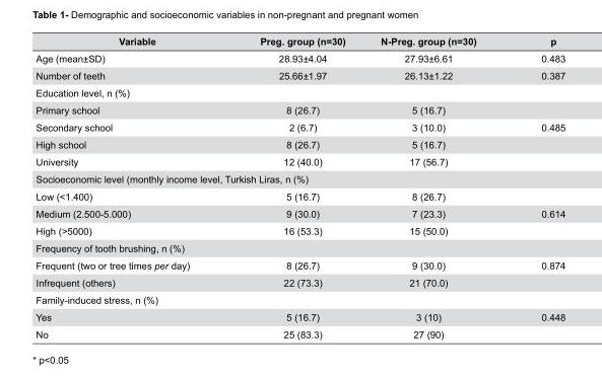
<table><thead><tr><td>Variable</td><td>Preg. group (n=30)</td><td>N-Preg. group (n=30)</td><td>p</td></tr></thead><tbody><tr><td>Age (mean±SD)</td><td>28.93±4.04</td><td>27.93±6.61</td><td>0.483</td></tr><tr><td>Number of teeth</td><td>25.66±1.97</td><td>26.13±1.22</td><td>0.387</td></tr><tr><td colspan="4">Education level, n (%)</td></tr><tr><td>Primary school</td><td>8 (26.7)</td><td>5 (16.7)</td><td></td></tr><tr><td>Secondary school</td><td>2 (6.7)</td><td>3 (10.0)</td><td>0.485</td></tr><tr><td>High school</td><td>8 (26.7)</td><td>5 (16.7)</td><td></td></tr><tr><td>University</td><td>12 (40.0)</td><td>17 (56.7)</td><td></td></tr><tr><td colspan="4">Socioeconomic level (monthly income level, Turkish Liras, n (%)</td></tr><tr><td>Low (&lt;1.400)</td><td>5 (16.7)</td><td>8 (26.7)</td><td></td></tr><tr><td>Medium (2.500-5.000)</td><td>9 (30.0)</td><td>7 (23.3)</td><td>0.614</td></tr><tr><td>High (&gt;5000)</td><td>16 (53.3)</td><td>15 (50.0)</td><td></td></tr><tr><td colspan="4">Frequency of tooth brushing, n (%)</td></tr><tr><td>Frequent (two or tree times per day)</td><td>8 (26.7)</td><td>9 (30.0)</td><td>0.874</td></tr><tr><td>Infrequent (others)</td><td>22 (73.3)</td><td>21 (70.0)</td><td></td></tr><tr><td colspan="4">Family-induced stress, n (%)</td></tr><tr><td>Yes</td><td>5 (16.7)</td><td>3 (10)</td><td>0.448</td></tr><tr><td>No</td><td>25 (83.3)</td><td>27 (90)</td><td></td></tr></tbody></table>